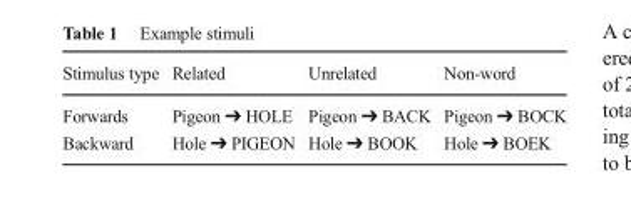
<table><thead><tr><td>Stimulus type</td><td>Related</td><td>Unrelated</td><td>Non-word</td></tr></thead><tbody><tr><td>Forwards</td><td>Pigeon ➔ HOLE</td><td>Pigeon ➔ BACK</td><td>Pigeon ➔ BOCK</td></tr><tr><td>Backward</td><td>Hole ➔ PIGEON</td><td>Hole ➔ BOOK</td><td>Hole ➔ BOEK</td></tr></tbody></table>